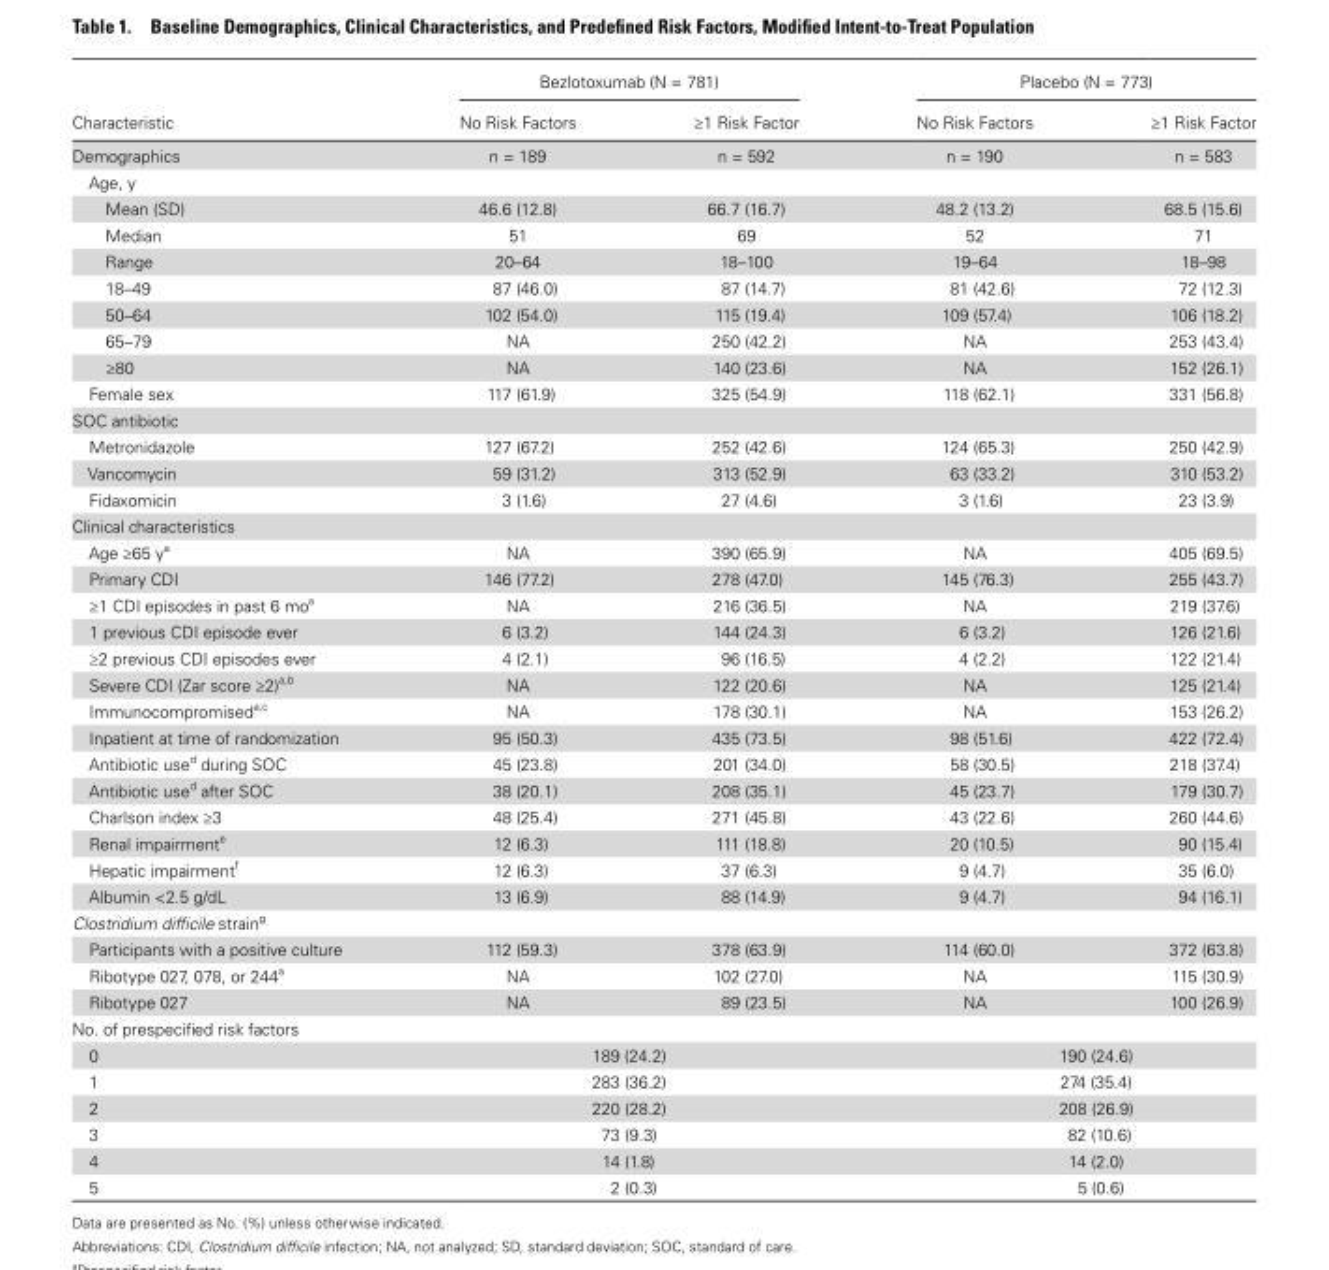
<table><thead><tr><td rowspan="2">Characteristic</td><td colspan="2">Bezlotoxumab (N = 781)</td><td colspan="2">Placebo (N = 773)</td></tr><tr><td>No Risk Factors</td><td>≥1 Risk Factor</td><td>No Risk Factors</td><td>≥1 Risk Factor</td></tr></thead><tbody><tr><td>Demographics</td><td>n = 189</td><td>n = 592</td><td>n = 190</td><td>n = 583</td></tr><tr><td colspan="5">Age, y</td></tr><tr><td>Mean (SD)</td><td>46.6 (12.8)</td><td>66.7 (16.7)</td><td>48.2 (13.2)</td><td>68.5 (15.6)</td></tr><tr><td>Median</td><td>51</td><td>69</td><td>52</td><td>71</td></tr><tr><td>Range</td><td>20–64</td><td>18–100</td><td>19–64</td><td>18–98</td></tr><tr><td>18–49</td><td>87 (46.0)</td><td>87 (14.7)</td><td>81 (42.6)</td><td>72 (12.3)</td></tr><tr><td>50–64</td><td>102 (54.0)</td><td>115 (19.4)</td><td>109 (57.4)</td><td>106 (18.2)</td></tr><tr><td>65–79</td><td>NA</td><td>250 (42.2)</td><td>NA</td><td>253 (43.4)</td></tr><tr><td>≥80</td><td>NA</td><td>140 (23.6)</td><td>NA</td><td>152 (26.1)</td></tr><tr><td>Female sex</td><td>117 (61.9)</td><td>325 (54.9)</td><td>118 (62.1)</td><td>331 (56.8)</td></tr><tr><td colspan="5">SOC antibiotic</td></tr><tr><td>Metronidazole</td><td>127 (67.2)</td><td>252 (42.6)</td><td>124 (65.3)</td><td>250 (42.9)</td></tr><tr><td>Vancomycin</td><td>59 (31.2)</td><td>313 (52.9)</td><td>63 (33.2)</td><td>310 (53.2)</td></tr><tr><td>Fidaxomicin</td><td>3 (1.6)</td><td>27 (4.6)</td><td>3 (1.6)</td><td>23 (3.9)</td></tr><tr><td colspan="5">Clinical characteristics</td></tr><tr><td>Age ≥65 y<sup>a</sup></td><td>NA</td><td>390 (65.9)</td><td>NA</td><td>405 (69.5)</td></tr><tr><td>Primary CDI</td><td>146 (77.2)</td><td>278 (47.0)</td><td>145 (76.3)</td><td>255 (43.7)</td></tr><tr><td>≥1 CDI episodes in past 6 mo<sup>a</sup></td><td>NA</td><td>216 (36.5)</td><td>NA</td><td>219 (37.6)</td></tr><tr><td>1 previous CDI episode ever</td><td>6 (3.2)</td><td>144 (24.3)</td><td>6 (3.2)</td><td>126 (21.6)</td></tr><tr><td>≥2 previous CDI episodes ever</td><td>4 (2.1)</td><td>96 (16.5)</td><td>4 (2.2)</td><td>122 (21.4)</td></tr><tr><td>Severe CDI (Zar score ≥2)<sup>a,b</sup></td><td>NA</td><td>122 (20.6)</td><td>NA</td><td>125 (21.4)</td></tr><tr><td>Immunocompromised<sup>a,c</sup></td><td>NA</td><td>178 (30.1)</td><td>NA</td><td>153 (26.2)</td></tr><tr><td>Inpatient at time of randomization</td><td>95 (50.3)</td><td>435 (73.5)</td><td>98 (51.6)</td><td>422 (72.4)</td></tr><tr><td>Antibiotic use<sup>d</sup> during SOC</td><td>45 (23.8)</td><td>201 (34.0)</td><td>58 (30.5)</td><td>218 (37.4)</td></tr><tr><td>Antibiotic use<sup>d</sup> after SOC</td><td>38 (20.1)</td><td>208 (35.1)</td><td>45 (23.7)</td><td>179 (30.7)</td></tr><tr><td>Charlson index ≥3</td><td>48 (25.4)</td><td>271 (45.8)</td><td>43 (22.6)</td><td>260 (44.6)</td></tr><tr><td>Renal impairment<sup>e</sup></td><td>12 (6.3)</td><td>111 (18.8)</td><td>20 (10.5)</td><td>90 (15.4)</td></tr><tr><td>Hepatic impairment<sup>f</sup></td><td>12 (6.3)</td><td>37 (6.3)</td><td>9 (4.7)</td><td>35 (6.0)</td></tr><tr><td>Albumin &lt;2.5 g/dL</td><td>13 (6.9)</td><td>88 (14.9)</td><td>9 (4.7)</td><td>94 (16.1)</td></tr><tr><td colspan="5">Clostridium difficile strain<sup>g</sup></td></tr><tr><td>Participants with a positive culture</td><td>112 (59.3)</td><td>378 (63.9)</td><td>114 (60.0)</td><td>372 (63.8)</td></tr><tr><td>Ribotype 027, 078, or 244<sup>a</sup></td><td>NA</td><td>102 (27.0)</td><td>NA</td><td>115 (30.9)</td></tr><tr><td>Ribotype 027</td><td>NA</td><td>89 (23.5)</td><td>NA</td><td>100 (26.9)</td></tr><tr><td colspan="5">No. of prespecified risk factors</td></tr><tr><td>0</td><td colspan="2">189 (24.2)</td><td colspan="2">190 (24.6)</td></tr><tr><td>1</td><td colspan="2">283 (36.2)</td><td colspan="2">274 (35.4)</td></tr><tr><td>2</td><td colspan="2">220 (28.2)</td><td colspan="2">208 (26.9)</td></tr><tr><td>3</td><td colspan="2">73 (9.3)</td><td colspan="2">82 (10.6)</td></tr><tr><td>4</td><td colspan="2">14 (1.8)</td><td colspan="2">14 (2.0)</td></tr><tr><td>5</td><td colspan="2">2 (0.3)</td><td colspan="2">5 (0.6)</td></tr></tbody></table>